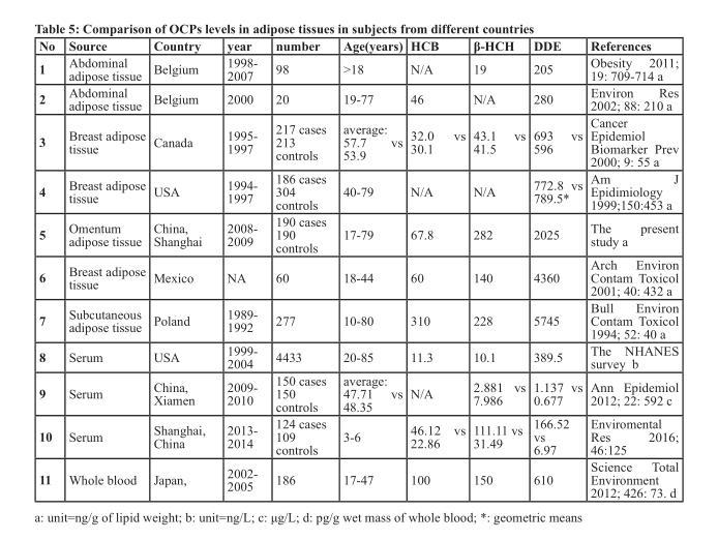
<table><thead><tr><td>no</td><td>source</td><td>country</td><td>year</td><td>number</td><td>Age(years)</td><td>Hcb</td><td>β-HCH</td><td>dde</td><td>references</td></tr></thead><tbody><tr><td>1</td><td>Abdominal adipose tissue</td><td>Belgium</td><td>1998- 2007</td><td>98</td><td>&gt;18</td><td>N/A</td><td>19</td><td>205</td><td>Obesity 2011; 19: 709-714 a</td></tr><tr><td>2</td><td>Abdominal adipose tissue</td><td>Belgium</td><td>2000</td><td>20</td><td>19-77</td><td>46</td><td>N/A</td><td>280</td><td>Environ Res 2002; 88: 210 a</td></tr><tr><td>3</td><td>Breast adipose tissue</td><td>Canada</td><td>1995- 1997</td><td>217 cases 213 controls</td><td>average: 57.7 vs 53.9</td><td>32.0 vs 30.1</td><td>43.1 vs 41.5</td><td>693 vs 596</td><td>Cancer Epidemiol Biomarker Prev 2000; 9: 55 a</td></tr><tr><td>4</td><td>Breast adipose tissue</td><td>USA</td><td>1994- 1997</td><td>186 cases 304 controls</td><td>40-79</td><td>N/A</td><td>N/A</td><td>772.8 vs 789.5*</td><td>Am J Epidimiology 1999;150:453 a</td></tr><tr><td>5</td><td>Omentum adipose tissue</td><td>China, Shanghai</td><td>2008- 2009</td><td>190 cases 190 controls</td><td>17-79</td><td>67.8</td><td>282</td><td>2025</td><td>The present study a</td></tr><tr><td>6</td><td>Breast adipose tissue</td><td>Mexico</td><td>NA</td><td>60</td><td>18-44</td><td>60</td><td>140</td><td>4360</td><td>Arch Environ Contam Toxicol 2001; 40: 432 a</td></tr><tr><td>7</td><td>Subcutaneous adipose tissue</td><td>Poland</td><td>1989- 1992</td><td>277</td><td>10-80</td><td>310</td><td>228</td><td>5745</td><td>Bull Environ Contam Toxicol 1994; 52: 40 a</td></tr><tr><td>8</td><td>Serum</td><td>USA</td><td>1999- 2004</td><td>4433</td><td>20-85</td><td>11.3</td><td>10.1</td><td>389.5</td><td>The NHANES survey b</td></tr><tr><td>9</td><td>Serum</td><td>China, Xiamen</td><td>2009- 2010</td><td>150 cases 150 controls</td><td>average: 47.71 vs 48.35</td><td>N/A</td><td>2.881 vs 7.986</td><td>1.137 vs 0.677</td><td>Ann Epidemiol 2012; 22: 592 c</td></tr><tr><td>10</td><td>Serum</td><td>Shanghai, China</td><td>2013- 2014</td><td>124 cases 109 controls</td><td>3-6</td><td>46.12 vs 22.86</td><td>111.11 vs 31.49</td><td>166.52 vs 6.97</td><td>Enviromental Res 2016; 46:125</td></tr><tr><td>11</td><td>Whole blood</td><td>Japan,</td><td>2002- 2005</td><td>186</td><td>17-47</td><td>100</td><td>150</td><td>610</td><td>Science Total Environment 2012; 426: 73. d</td></tr></tbody></table>